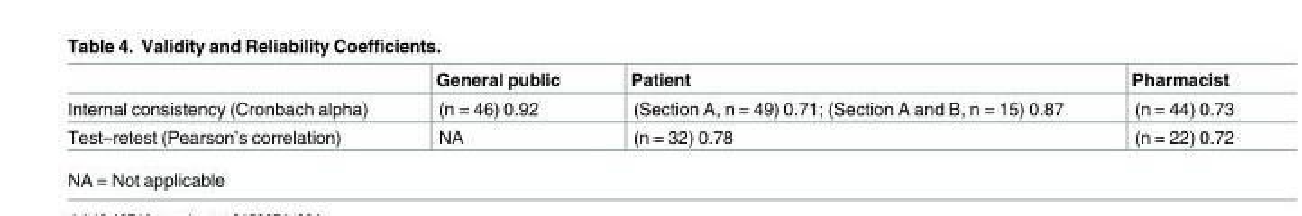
<table><thead><tr><td></td><td>General public</td><td>Patient</td><td>Pharmacist</td></tr></thead><tbody><tr><td>Internal consistency (Cronbach alpha)</td><td>(n = 46) 0.92</td><td>(Section A, n = 49) 0.71; (Section A and B, n = 15) 0.87</td><td>(n = 44) 0.73</td></tr><tr><td>Test–retest (Pearson’s correlation)</td><td>NA</td><td>(n = 32) 0.78</td><td>(n = 22) 0.72</td></tr></tbody></table>